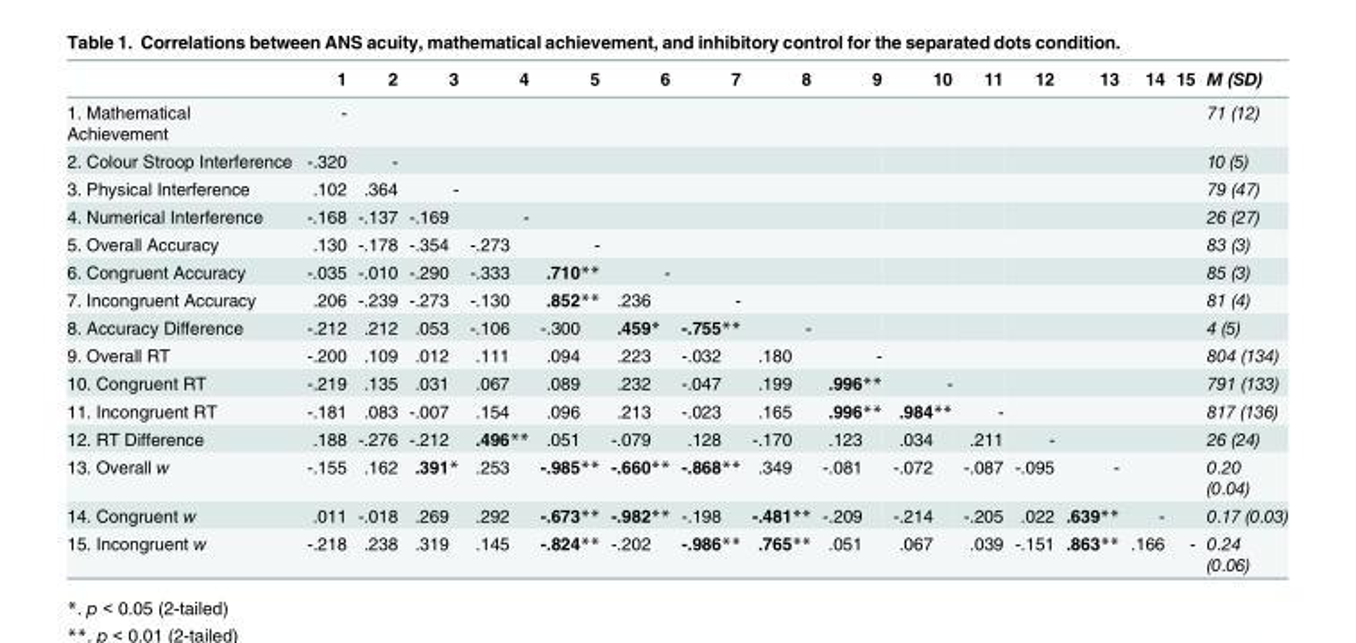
<table><thead><tr><td></td><td>1</td><td>2</td><td>3</td><td>4</td><td>5</td><td>6</td><td>7</td><td>8</td><td>9</td><td>10</td><td>11</td><td>12</td><td>13</td><td>14</td><td>15</td><td>M (SD)</td></tr></thead><tbody><tr><td>1. Mathematical Achievement</td><td>-</td><td></td><td></td><td></td><td></td><td></td><td></td><td></td><td></td><td></td><td></td><td></td><td></td><td></td><td></td><td>71 (12)</td></tr><tr><td>2. Colour Stroop Interference</td><td>-.320</td><td>-</td><td></td><td></td><td></td><td></td><td></td><td></td><td></td><td></td><td></td><td></td><td></td><td></td><td></td><td>10 (5)</td></tr><tr><td>3. Physical Interference</td><td>.102</td><td>.364</td><td>-</td><td></td><td></td><td></td><td></td><td></td><td></td><td></td><td></td><td></td><td></td><td></td><td></td><td>79 (47)</td></tr><tr><td>4. Numerical Interference</td><td>-.168</td><td>-.137</td><td>-.169</td><td>-</td><td></td><td></td><td></td><td></td><td></td><td></td><td></td><td></td><td></td><td></td><td></td><td>26 (27)</td></tr><tr><td>5. Overall Accuracy</td><td>.130</td><td>-.178</td><td>-.354</td><td>-.273</td><td>-</td><td></td><td></td><td></td><td></td><td></td><td></td><td></td><td></td><td></td><td></td><td>83 (3)</td></tr><tr><td>6. Congruent Accuracy</td><td>-.035</td><td>-.010</td><td>-.290</td><td>-.333</td><td>.710**</td><td>-</td><td></td><td></td><td></td><td></td><td></td><td></td><td></td><td></td><td></td><td>85 (3)</td></tr><tr><td>7. Incongruent Accuracy</td><td>.206</td><td>-.239</td><td>-.273</td><td>-.130</td><td>.852**</td><td>.236</td><td>-</td><td></td><td></td><td></td><td></td><td></td><td></td><td></td><td></td><td>81 (4)</td></tr><tr><td>8. Accuracy Difference</td><td>-.212</td><td>.212</td><td>.053</td><td>-.106</td><td>-.300</td><td>.459*</td><td>-.755**</td><td>-</td><td></td><td></td><td></td><td></td><td></td><td></td><td></td><td>4 (5)</td></tr><tr><td>9. Overall RT</td><td>-.200</td><td>.109</td><td>.012</td><td>.111</td><td>.094</td><td>.223</td><td>-.032</td><td>.180</td><td>-</td><td></td><td></td><td></td><td></td><td></td><td></td><td>804 (134)</td></tr><tr><td>10. Congruent RT</td><td>-.219</td><td>.135</td><td>.031</td><td>.067</td><td>.089</td><td>.232</td><td>-.047</td><td>.199</td><td>.996**</td><td>-</td><td></td><td></td><td></td><td></td><td></td><td>791 (133)</td></tr><tr><td>11. Incongruent RT</td><td>-.181</td><td>.083</td><td>-.007</td><td>.154</td><td>.096</td><td>.213</td><td>-.023</td><td>.165</td><td>.996**</td><td>.984**</td><td>-</td><td></td><td></td><td></td><td></td><td>817 (136)</td></tr><tr><td>12. RT Difference</td><td>.188</td><td>-.276</td><td>-.212</td><td>.496**</td><td>.051</td><td>-.079</td><td>.128</td><td>-.170</td><td>.123</td><td>.034</td><td>.211</td><td>-</td><td></td><td></td><td></td><td>26 (24)</td></tr><tr><td>13. Overall w</td><td>-.155</td><td>.162</td><td>.391*</td><td>.253</td><td>-.985**</td><td>-.660**</td><td>-.868**</td><td>.349</td><td>-.081</td><td>-.072</td><td>-.087</td><td>-.095</td><td>-</td><td></td><td></td><td>0.20 (0.04)</td></tr><tr><td>14. Congruent w</td><td>.011</td><td>-.018</td><td>.269</td><td>.292</td><td>-.673**</td><td>-.982**</td><td>-.198</td><td>-.481**</td><td>-.209</td><td>-.214</td><td>-.205</td><td>.022</td><td>.639**</td><td>-</td><td></td><td>0.17 (0.03)</td></tr><tr><td>15. Incongruent w</td><td>-.218</td><td>.238</td><td>.319</td><td>.145</td><td>-.824**</td><td>-.202</td><td>-.986**</td><td>.765**</td><td>.051</td><td>.067</td><td>.039</td><td>-.151</td><td>.863**</td><td>.166</td><td>-</td><td>0.24 (0.06)</td></tr></tbody></table>